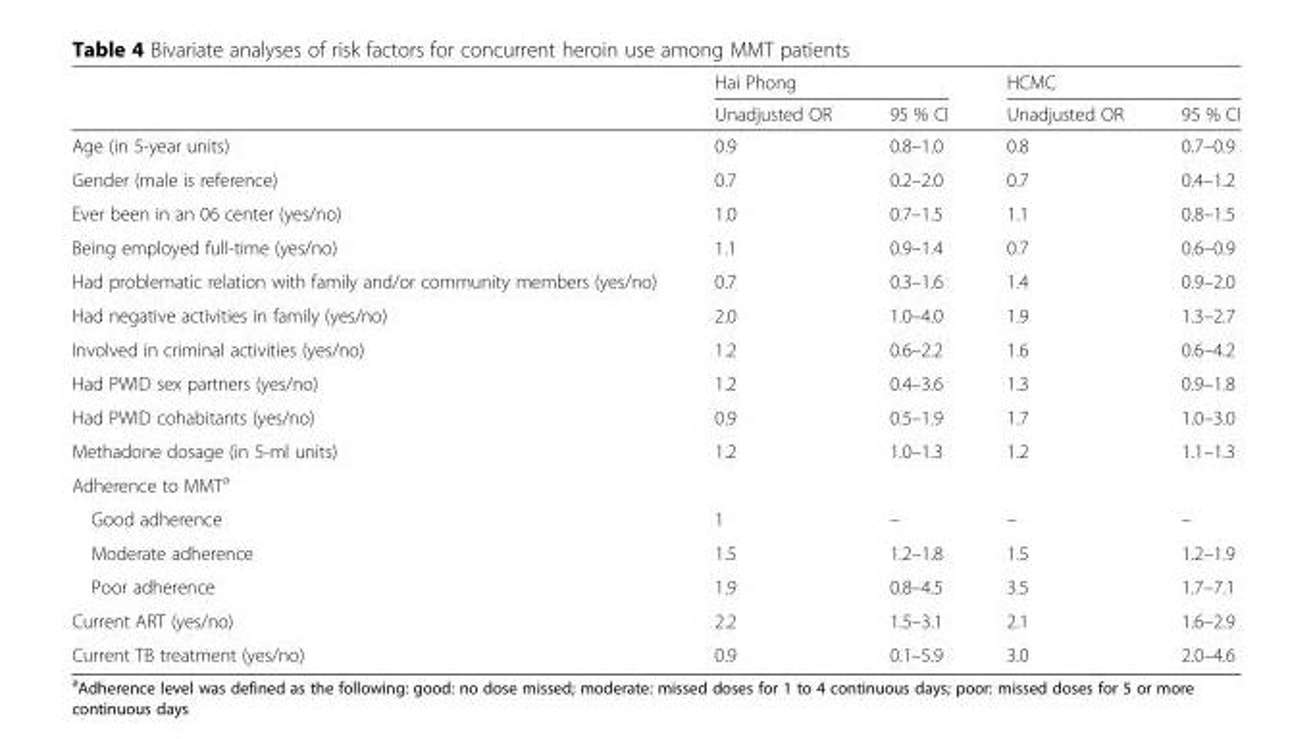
<table><thead><tr><td rowspan="2"></td><td colspan="2">Hai Phong</td><td colspan="2">HCMC</td></tr><tr><td>Unadjusted OR</td><td>95 % CI</td><td>Unadjusted OR</td><td>95 % CI</td></tr></thead><tbody><tr><td>Age (in 5-year units)</td><td>0.9</td><td>0.8–1.0</td><td>0.8</td><td>0.7–0.9</td></tr><tr><td>Gender (male is reference)</td><td>0.7</td><td>0.2–2.0</td><td>0.7</td><td>0.4–1.2</td></tr><tr><td>Ever been in an 06 center (yes/no)</td><td>1.0</td><td>0.7–1.5</td><td>1.1</td><td>0.8–1.5</td></tr><tr><td>Being employed full-time (yes/no)</td><td>1.1</td><td>0.9–1.4</td><td>0.7</td><td>0.6–0.9</td></tr><tr><td>Had problematic relation with family and/or community members (yes/no)</td><td>0.7</td><td>0.3–1.6</td><td>1.4</td><td>0.9–2.0</td></tr><tr><td>Had negative activities in family (yes/no)</td><td>2.0</td><td>1.0–4.0</td><td>1.9</td><td>1.3–2.7</td></tr><tr><td>Involved in criminal activities (yes/no)</td><td>1.2</td><td>0.6–2.2</td><td>1.6</td><td>0.6–4.2</td></tr><tr><td>Had PWID sex partners (yes/no)</td><td>1.2</td><td>0.4–3.6</td><td>1.3</td><td>0.9–1.8</td></tr><tr><td>Had PWID cohabitants (yes/no)</td><td>0.9</td><td>0.5–1.9</td><td>1.7</td><td>1.0–3.0</td></tr><tr><td>Methadone dosage (in 5-ml units)</td><td>1.2</td><td>1.0–1.3</td><td>1.2</td><td>1.1–1.3</td></tr><tr><td colspan="5">Adherence to MMT<sup>a</sup></td></tr><tr><td>Good adherence</td><td>1</td><td>–</td><td>–</td><td>–</td></tr><tr><td>Moderate adherence</td><td>1.5</td><td>1.2–1.8</td><td>1.5</td><td>1.2–1.9</td></tr><tr><td>Poor adherence</td><td>1.9</td><td>0.8–4.5</td><td>3.5</td><td>1.7–7.1</td></tr><tr><td>Current ART (yes/no)</td><td>2.2</td><td>1.5–3.1</td><td>2.1</td><td>1.6–2.9</td></tr><tr><td>Current TB treatment (yes/no)</td><td>0.9</td><td>0.1–5.9</td><td>3.0</td><td>2.0–4.6</td></tr></tbody></table>